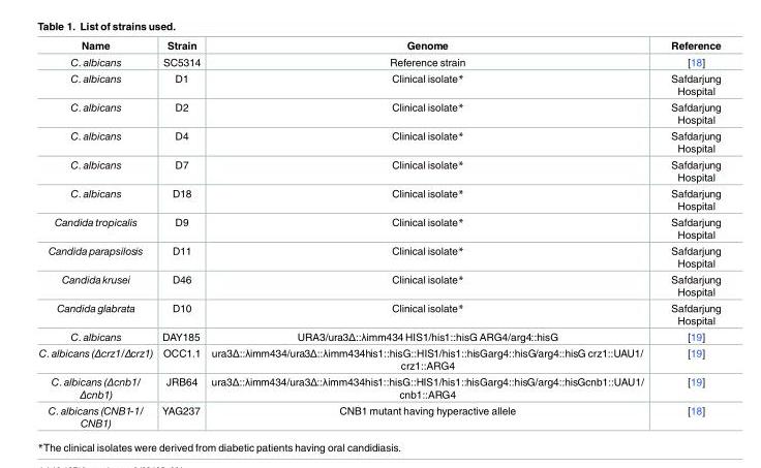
<table><thead><tr><td>Name</td><td>Strain</td><td>Genome</td><td>Reference</td></tr></thead><tbody><tr><td>C. albicans</td><td>SC5314</td><td>Reference strain</td><td>[18]</td></tr><tr><td>C. albicans</td><td>D1</td><td>Clinical isolate*</td><td>Safdarjung Hospital</td></tr><tr><td>C. albicans</td><td>D2</td><td>Clinical isolate*</td><td>Safdarjung Hospital</td></tr><tr><td>C. albicans</td><td>D4</td><td>Clinical isolate*</td><td>Safdarjung Hospital</td></tr><tr><td>C. albicans</td><td>D7</td><td>Clinical isolate*</td><td>Safdarjung Hospital</td></tr><tr><td>C. albicans</td><td>D18</td><td>Clinical isolate*</td><td>Safdarjung Hospital</td></tr><tr><td>Candida tropicalis</td><td>D9</td><td>Clinical isolate*</td><td>Safdarjung Hospital</td></tr><tr><td>Candida parapsilosis</td><td>D11</td><td>Clinical isolate*</td><td>Safdarjung Hospital</td></tr><tr><td>Candida krusei</td><td>D46</td><td>Clinical isolate*</td><td>Safdarjung Hospital</td></tr><tr><td>Candida glabrata</td><td>D10</td><td>Clinical isolate*</td><td>Safdarjung Hospital</td></tr><tr><td>C. albicans</td><td>DAY185</td><td>URA3/ura3Δ::λimm434 HIS1/his1::hisG ARG4/arg4::hisG</td><td>[19]</td></tr><tr><td>C. albicans (Δcrz1/Δcrz1)</td><td>OCC1.1</td><td>ura3Δ::λimm434/ura3Δ::λimm434his1::hisG::HIS1/his1::hisGarg4::hisG/arg4::hisG crz1::UAU1/ crz1::ARG4</td><td>[19]</td></tr><tr><td>C. albicans (Δcnb1/ Δcnb1)</td><td>JRB64</td><td>ura3Δ::λimm434/ura3Δ::λimm434his1::hisG::HIS1/his1::hisGarg4::hisG/arg4::hisGcnb1::UAU1/ cnb1::ARG4</td><td>[19]</td></tr><tr><td>C. albicans (CNB1-1/ CNB1)</td><td>YAG237</td><td>CNB1 mutant having hyperactive allele</td><td>[18]</td></tr></tbody></table>